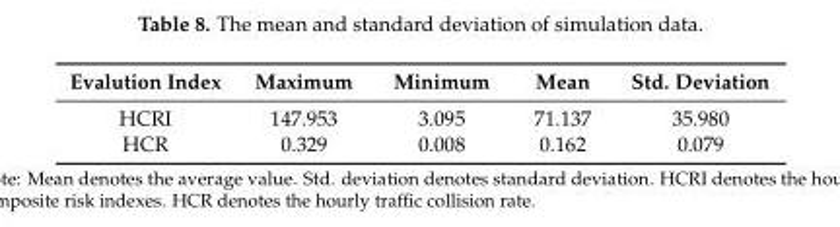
<table><thead><tr><td>Evalution Index</td><td>Maximum</td><td>Minimum</td><td>Mean</td><td>Std. Deviation</td></tr></thead><tbody><tr><td>HCRI</td><td>147.953</td><td>3.095</td><td>71.137</td><td>35.980</td></tr><tr><td>HCR</td><td>0.329</td><td>0.008</td><td>0.162</td><td>0.079</td></tr></tbody></table>